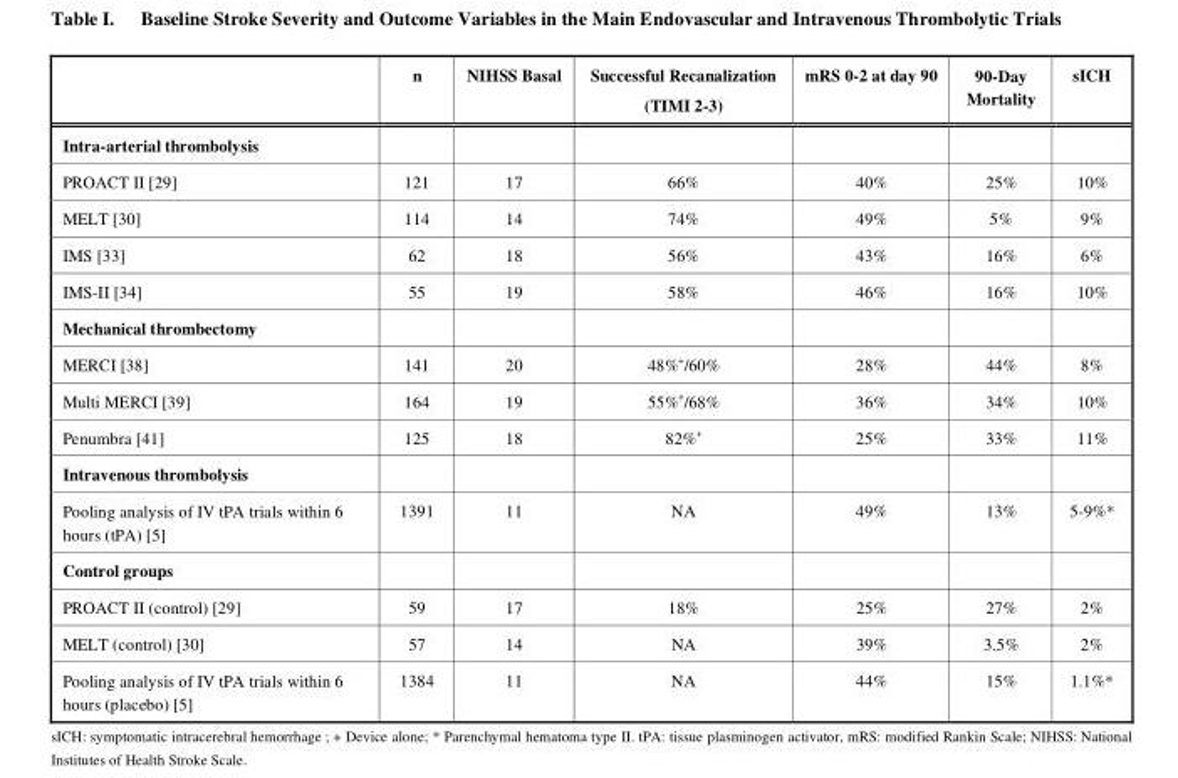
<table><thead><tr><td></td><td>n</td><td>NIHSS Basal</td><td>Successful Recanalization (TIMI 2-3)</td><td>mRS 0-2 at day 90</td><td>90-Day Mortality</td><td>sICH</td></tr></thead><tbody><tr><td colspan="7">Intra-arterial thrombolysis</td></tr><tr><td>PROACT II [29]</td><td>121</td><td>17</td><td>66%</td><td>40%</td><td>25%</td><td>10%</td></tr><tr><td>MELT [30]</td><td>114</td><td>14</td><td>74%</td><td>49%</td><td>5%</td><td>9%</td></tr><tr><td>IMS [33]</td><td>62</td><td>18</td><td>56%</td><td>43%</td><td>16%</td><td>6%</td></tr><tr><td>IMS-II [34]</td><td>55</td><td>19</td><td>58%</td><td>46%</td><td>16%</td><td>10%</td></tr><tr><td colspan="7">Mechanical thrombectomy</td></tr><tr><td>MERCI [38]</td><td>141</td><td>20</td><td>48%+/60%</td><td>28%</td><td>44%</td><td>8%</td></tr><tr><td>Multi MERCI [39]</td><td>164</td><td>19</td><td>55%+/68%</td><td>36%</td><td>34%</td><td>10%</td></tr><tr><td>Penumbra [41]</td><td>125</td><td>18</td><td>82%+</td><td>25%</td><td>33%</td><td>11%</td></tr><tr><td colspan="7">Intravenous thrombolysis</td></tr><tr><td>Pooling analysis of IV tPA trials within 6 hours (tPA) [5]</td><td>1391</td><td>11</td><td>NA</td><td>49%</td><td>13%</td><td>5-9%*</td></tr><tr><td colspan="7">Control groups</td></tr><tr><td>PROACT II (control) [29]</td><td>59</td><td>17</td><td>18%</td><td>25%</td><td>27%</td><td>2%</td></tr><tr><td>MELT (control) [30]</td><td>57</td><td>14</td><td>NA</td><td>39%</td><td>3.5%</td><td>2%</td></tr><tr><td>Pooling analysis of IV tPA trials within 6 hours (placebo) [5]</td><td>1384</td><td>11</td><td>NA</td><td>44%</td><td>15%</td><td>1.1%*</td></tr></tbody></table>